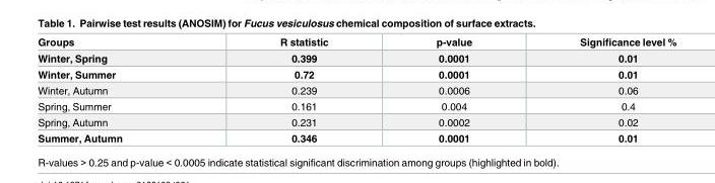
<table><thead><tr><td>Groups</td><td>R statistic</td><td>p-value</td><td>Significance level %</td></tr></thead><tbody><tr><td>Winter, Spring</td><td>0.399</td><td>0.0001</td><td>0.01</td></tr><tr><td>Winter, Summer</td><td>0.72</td><td>0.0001</td><td>0.01</td></tr><tr><td>Winter, Autumn</td><td>0.239</td><td>0.0006</td><td>0.06</td></tr><tr><td>Spring, Summer</td><td>0.161</td><td>0.004</td><td>0.4</td></tr><tr><td>Spring, Autumn</td><td>0.231</td><td>0.0002</td><td>0.02</td></tr><tr><td>Summer, Autumn</td><td>0.346</td><td>0.0001</td><td>0.01</td></tr></tbody></table>